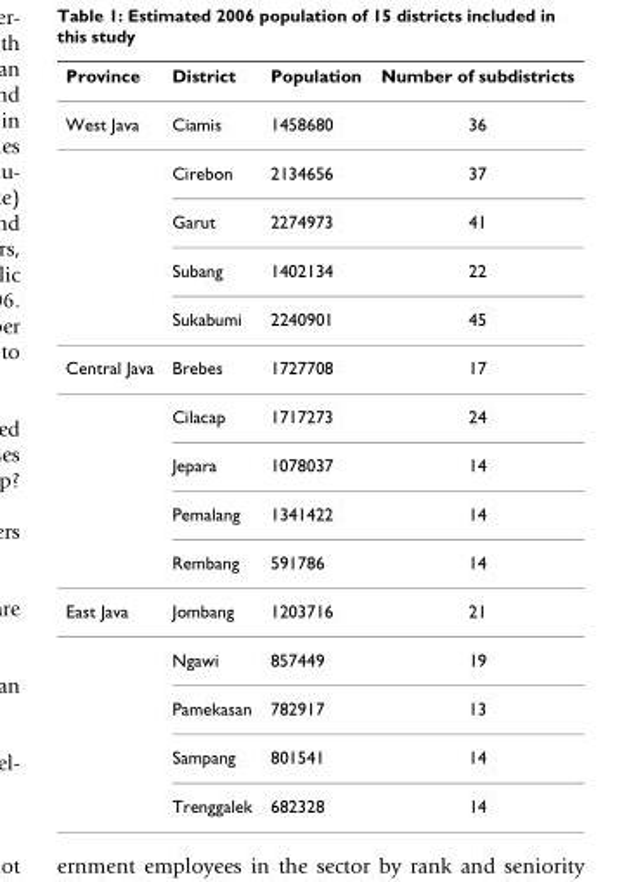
<table><thead><tr><td>Province</td><td>District</td><td>Population</td><td>Number of subdistricts</td></tr></thead><tbody><tr><td rowspan="5">West Java</td><td>Ciamis</td><td>1458680</td><td>36</td></tr><tr><td>Cirebon</td><td>2134656</td><td>37</td></tr><tr><td>Garut</td><td>2274973</td><td>41</td></tr><tr><td>Subang</td><td>1402134</td><td>22</td></tr><tr><td>Sukabumi</td><td>2240901</td><td>45</td></tr><tr><td rowspan="5">Central Java</td><td>Brebes</td><td>1727708</td><td>17</td></tr><tr><td>Cilacap</td><td>1717273</td><td>24</td></tr><tr><td>Jepara</td><td>1078037</td><td>14</td></tr><tr><td>Pemalang</td><td>1341422</td><td>14</td></tr><tr><td>Rembang</td><td>591786</td><td>14</td></tr><tr><td rowspan="5">East Java</td><td>Jombang</td><td>1203716</td><td>21</td></tr><tr><td>Ngawi</td><td>857449</td><td>19</td></tr><tr><td>Pamekasan</td><td>782917</td><td>13</td></tr><tr><td>Sampang</td><td>801541</td><td>14</td></tr><tr><td>Trenggalek</td><td>682328</td><td>14</td></tr></tbody></table>